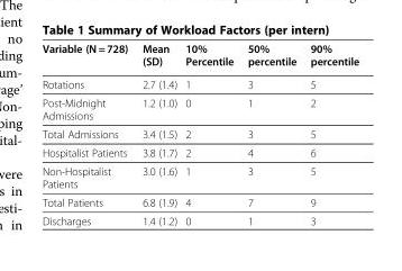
<table><thead><tr><td>Variable (N = 728)</td><td>Mean (SD)</td><td>10% Percentile</td><td>50% percentile</td><td>90% percentile</td></tr></thead><tbody><tr><td>Rotations</td><td>2.7 (1.4)</td><td>1</td><td>3</td><td>5</td></tr><tr><td>Post-Midnight Admissions</td><td>1.2 (1.0)</td><td>0</td><td>1</td><td>2</td></tr><tr><td>Total Admissions</td><td>3.4 (1.5)</td><td>2</td><td>3</td><td>5</td></tr><tr><td>Hospitalist Patients</td><td>3.8 (1.7)</td><td>2</td><td>4</td><td>6</td></tr><tr><td>Non-Hospitalist Patients</td><td>3.0 (1.6)</td><td>1</td><td>3</td><td>5</td></tr><tr><td>Total Patients</td><td>6.8 (1.9)</td><td>4</td><td>7</td><td>9</td></tr><tr><td>Discharges</td><td>1.4 (1.2)</td><td>0</td><td>1</td><td>3</td></tr></tbody></table>